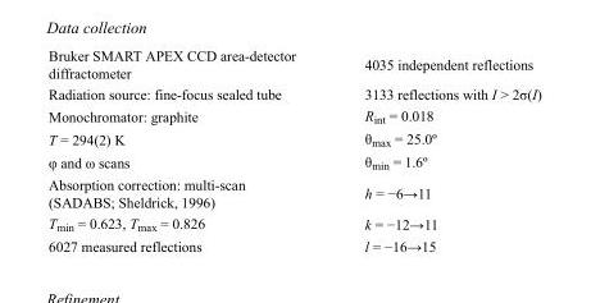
<table><tbody><tr><td>Bruker SMART APEX CCD area-detector diffractometer</td><td>4035 independent reflections</td></tr><tr><td>Radiation source: fine-focus sealed tube</td><td>3133 reflections with I &gt; 2σ(I)</td></tr><tr><td>Monochromator: graphite</td><td>R<sub>int</sub> = 0.018</td></tr><tr><td>T = 294(2) K</td><td>θ<sub>max</sub> = 25.0º</td></tr><tr><td>φ and ω scans</td><td>θ<sub>min</sub> = 1.6º</td></tr><tr><td>Absorption correction: multi-scan (SADABS; Sheldrick, 1996)</td><td>h = −6→11</td></tr><tr><td>T<sub>min</sub> = 0.623, T<sub>max</sub> = 0.826</td><td>k = −12→11</td></tr><tr><td>6027 measured reflections</td><td>l = −16→15</td></tr></tbody></table>